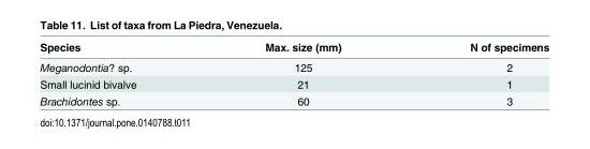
<table><thead><tr><td>Species</td><td>Max. size (mm)</td><td>N of specimens</td></tr></thead><tbody><tr><td>Meganodontia? sp.</td><td>125</td><td>2</td></tr><tr><td>Small lucinid bivalve</td><td>21</td><td>1</td></tr><tr><td>Brachidontes sp.</td><td>60</td><td>3</td></tr></tbody></table>